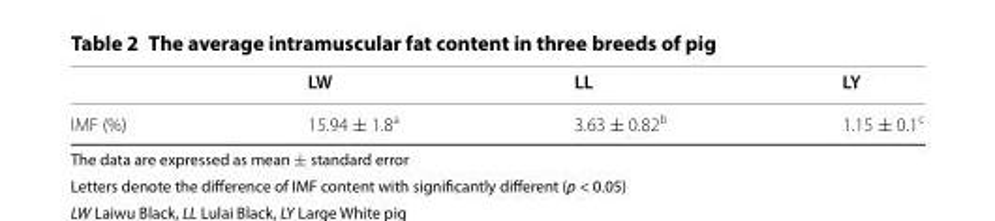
<table><thead><tr><td></td><td>LW</td><td>LL</td><td>LY</td></tr></thead><tbody><tr><td>IMF (%)</td><td>15.94 ± 1.8<sup>a</sup></td><td>3.63 ± 0.82<sup>b</sup></td><td>1.15 ± 0.1<sup>c</sup></td></tr></tbody></table>